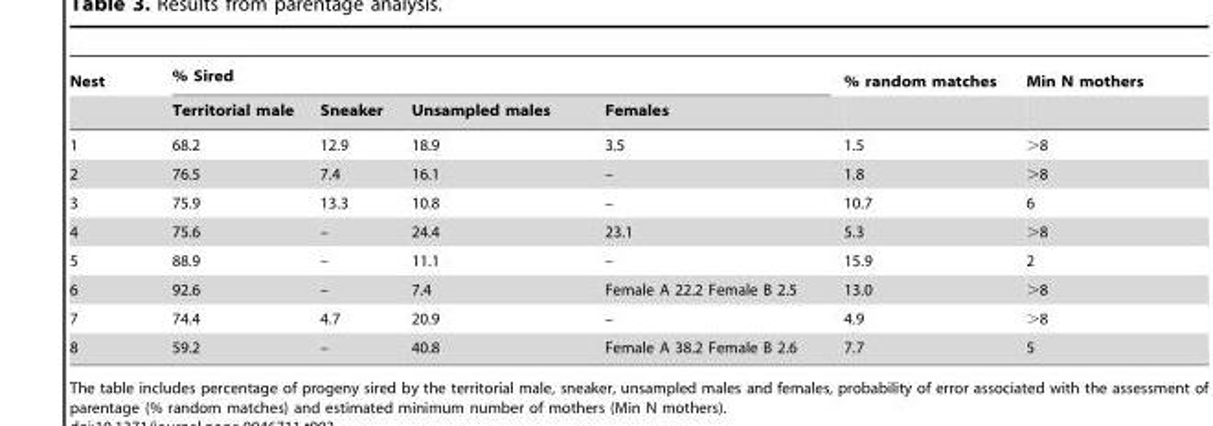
<table><thead><tr><td rowspan="2">Nest</td><td colspan="4">% Sired</td><td rowspan="2">% random matches</td><td rowspan="2">Min N mothers</td></tr><tr><td>Territorial male</td><td>Sneaker</td><td>Unsampled males</td><td>Females</td></tr></thead><tbody><tr><td>1</td><td>68.2</td><td>12.9</td><td>18.9</td><td>3.5</td><td>1.5</td><td>&gt;8</td></tr><tr><td>2</td><td>76.5</td><td>7.4</td><td>16.1</td><td>–</td><td>1.8</td><td>&gt;8</td></tr><tr><td>3</td><td>75.9</td><td>13.3</td><td>10.8</td><td>–</td><td>10.7</td><td>6</td></tr><tr><td>4</td><td>75.6</td><td>–</td><td>24.4</td><td>23.1</td><td>5.3</td><td>&gt;8</td></tr><tr><td>5</td><td>88.9</td><td>–</td><td>11.1</td><td>–</td><td>15.9</td><td>2</td></tr><tr><td>6</td><td>92.6</td><td>–</td><td>7.4</td><td>Female A 22.2 Female B 2.5</td><td>13.0</td><td>&gt;8</td></tr><tr><td>7</td><td>74.4</td><td>4.7</td><td>20.9</td><td>–</td><td>4.9</td><td>&gt;8</td></tr><tr><td>8</td><td>59.2</td><td>–</td><td>40.8</td><td>Female A 38.2 Female B 2.6</td><td>7.7</td><td>5</td></tr></tbody></table>